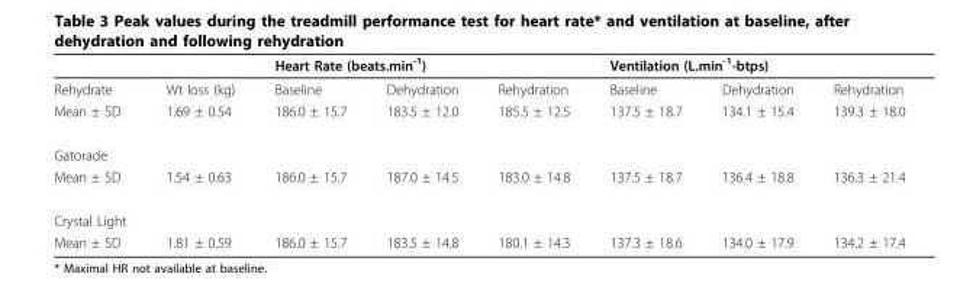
<table><thead><tr><td rowspan="2">Rehydrate</td><td rowspan="2">Wt loss (kg)</td><td colspan="3">Heart Rate (beats.min<sup>-1</sup>)</td><td colspan="3">Ventilation (L.min<sup>-1</sup>-btps)</td></tr><tr><td>Baseline</td><td>Dehydration</td><td>Rehydration</td><td>Baseline</td><td>Dehydration</td><td>Rehydration</td></tr></thead><tbody><tr><td>Mean ± SD</td><td>1.69 ± 0.54</td><td>186.0 ± 15.7</td><td>183.5 ± 12.0</td><td>185.5 ± 12.5</td><td>137.5 ± 18.7</td><td>134.1 ± 15.4</td><td>139.3 ± 18.0</td></tr><tr><td colspan="8">Gatorade</td></tr><tr><td>Mean ± SD</td><td>1.54 ± 0.63</td><td>186.0 ± 15.7</td><td>187.0 ± 14.5</td><td>183.0 ± 14.8</td><td>137.5 ± 18.7</td><td>136.4 ± 18.8</td><td>136.3 ± 21.4</td></tr><tr><td colspan="8">Crystal Light</td></tr><tr><td>Mean ± SD</td><td>1.81 ± 0.59</td><td>186.0 ± 15.7</td><td>183.5 ± 14.8</td><td>180.1 ± 14.3</td><td>137.3 ± 18.6</td><td>134.0 ± 17.9</td><td>134.2 ± 17.4</td></tr></tbody></table>